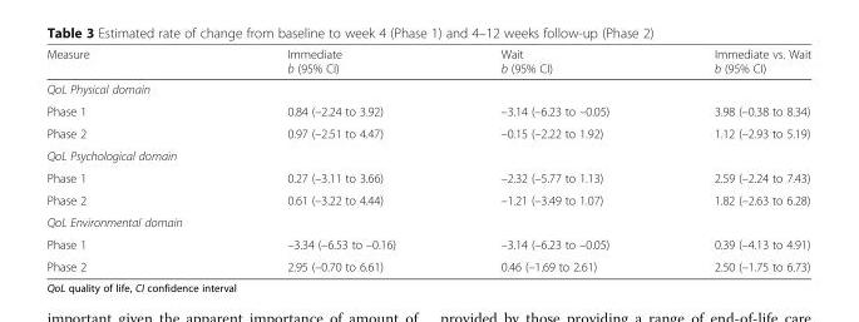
<table><thead><tr><td>Measure</td><td>Immediate b (95% CI)</td><td>Wait b (95% CI)</td><td>Immediate vs. Wait b (95% CI)</td></tr></thead><tbody><tr><td colspan="4">QoL Physical domain</td></tr><tr><td>Phase 1</td><td>0.84 (–2.24 to 3.92)</td><td>–3.14 (–6.23 to –0.05)</td><td>3.98 (–0.38 to 8.34)</td></tr><tr><td>Phase 2</td><td>0.97 (–2.51 to 4.47)</td><td>–0.15 (–2.22 to 1.92)</td><td>1.12 (–2.93 to 5.19)</td></tr><tr><td colspan="4">QoL Psychological domain</td></tr><tr><td>Phase 1</td><td>0.27 (–3.11 to 3.66)</td><td>–2.32 (–5.77 to 1.13)</td><td>2.59 (–2.24 to 7.43)</td></tr><tr><td>Phase 2</td><td>0.61 (–3.22 to 4.44)</td><td>–1.21 (–3.49 to 1.07)</td><td>1.82 (–2.63 to 6.28)</td></tr><tr><td colspan="4">QoL Environmental domain</td></tr><tr><td>Phase 1</td><td>–3.34 (–6.53 to –0.16)</td><td>–3.14 (–6.23 to –0.05)</td><td>0.39 (–4.13 to 4.91)</td></tr><tr><td>Phase 2</td><td>2.95 (–0.70 to 6.61)</td><td>0.46 (–1.69 to 2.61)</td><td>2.50 (–1.75 to 6.73)</td></tr></tbody></table>